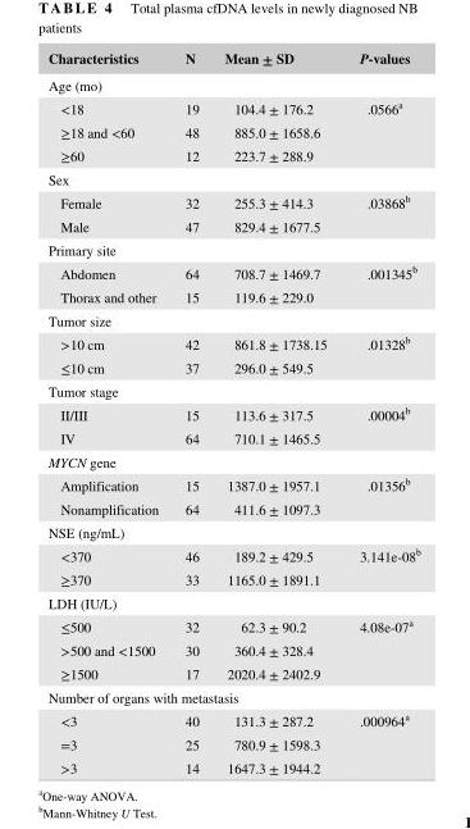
<table><thead><tr><td>Characteristics</td><td>N</td><td>Mean ± SD</td><td>P- values</td></tr></thead><tbody><tr><td colspan="4">Age (mo)</td></tr><tr><td>&lt;18</td><td>19</td><td>104.4 ± 176.2</td><td rowspan="3">.0566<sup>a</sup></td></tr><tr><td>≥18 and &lt;60</td><td>48</td><td>885.0 ± 1658.6</td></tr><tr><td>≥60</td><td>12</td><td>223.7 ± 288.9</td></tr><tr><td colspan="4">Sex</td></tr><tr><td>Female</td><td>32</td><td>255.3 ± 414.3</td><td rowspan="2">.03868<sup>b</sup></td></tr><tr><td>Male</td><td>47</td><td>829.4 ± 1677.5</td></tr><tr><td colspan="4">Primary site</td></tr><tr><td>Abdomen</td><td>64</td><td>708.7 ± 1469.7</td><td rowspan="2">.001345<sup>b</sup></td></tr><tr><td>Thorax and other</td><td>15</td><td>119.6 ± 229.0</td></tr><tr><td colspan="4">Tumor size</td></tr><tr><td>&gt;10 cm</td><td>42</td><td>861.8 ± 1738.15</td><td rowspan="2">.01328<sup>b</sup></td></tr><tr><td>≤10 cm</td><td>37</td><td>296.0 ± 549.5</td></tr><tr><td colspan="4">Tumor stage</td></tr><tr><td>II/III</td><td>15</td><td>113.6 ± 317.5</td><td rowspan="2">.00004<sup>b</sup></td></tr><tr><td>IV</td><td>64</td><td>710.1 ± 1465.5</td></tr><tr><td colspan="4">MYCN gene</td></tr><tr><td>Amplification</td><td>15</td><td>1387.0 ± 1957.1</td><td rowspan="2">.01356<sup>b</sup></td></tr><tr><td>Nonamplification</td><td>64</td><td>411.6 ± 1097.3</td></tr><tr><td colspan="4">NSE (ng/mL)</td></tr><tr><td>&lt;370</td><td>46</td><td>189.2 ± 429.5</td><td rowspan="2">3.141e- 08<sup>b</sup></td></tr><tr><td>≥370</td><td>33</td><td>1165.0 ± 1891.1</td></tr><tr><td colspan="4">LDH (IU/L)</td></tr><tr><td>≤500</td><td>32</td><td>62.3 ± 90.2</td><td rowspan="3">4.08e- 07<sup>a</sup></td></tr><tr><td>&gt;500 and &lt;1500</td><td>30</td><td>360.4 ± 328.4</td></tr><tr><td>≥1500</td><td>17</td><td>2020.4 ± 2402.9</td></tr><tr><td colspan="4">Number of organs with metastasis</td></tr><tr><td>&lt;3</td><td>40</td><td>131.3 ± 287.2</td><td rowspan="3">.000964<sup>a</sup></td></tr><tr><td>=3</td><td>25</td><td>780.9 ± 1598.3</td></tr><tr><td>&gt;3</td><td>14</td><td>1647.3 ± 1944.2</td></tr></tbody></table>